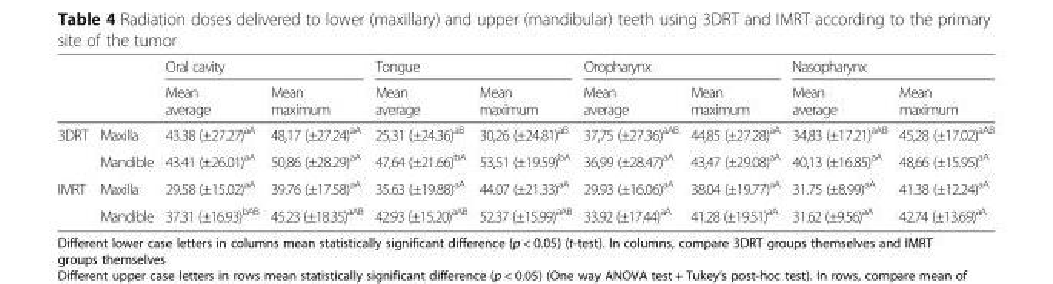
<table><thead><tr><td rowspan="2"></td><td rowspan="2"></td><td colspan="2">Oral cavity</td><td colspan="2">Tongue</td><td colspan="2">Oropharynx</td><td colspan="2">Nasopharynx</td></tr><tr><td>Mean average</td><td>Mean maximum</td><td>Mean average</td><td>Mean maximum</td><td>Mean average</td><td>Mean maximum</td><td>Mean average</td><td>Mean maximum</td></tr></thead><tbody><tr><td rowspan="2">3DRT</td><td>Maxilla</td><td>43.38 (±27.27)<sup>aA</sup></td><td>48,17 (±27.24)<sup>aA</sup></td><td>25,31 (±24.36)<sup>aB</sup></td><td>30,26 (±24.81)<sup>aB</sup></td><td>37,75 (±27.36)<sup>aAB</sup></td><td>44,85 (±27.28)<sup>aA</sup></td><td>34,83 (±17.21)<sup>aAB</sup></td><td>45,28 (±17.02)<sup>aAB</sup></td></tr><tr><td>Mandible</td><td>43.41 (±26.01)<sup>aA</sup></td><td>50,86 (±28.29)<sup>aA</sup></td><td>47,64 (±21.66)<sup>bA</sup></td><td>53,51 (±19.59)<sup>bA</sup></td><td>36,99 (±28.47)<sup>aA</sup></td><td>43,47 (±29.08)<sup>aA</sup></td><td>40,13 (±16.85)<sup>aA</sup></td><td>48,66 (±15.95)<sup>aA</sup></td></tr><tr><td rowspan="2">IMRT</td><td>Maxilla</td><td>29.58 (±15.02)<sup>aA</sup></td><td>39.76 (±17.58)<sup>aA</sup></td><td>35.63 (±19.88)<sup>aA</sup></td><td>44.07 (±21.33)<sup>aA</sup></td><td>29.93 (±16.06)<sup>aA</sup></td><td>38.04 (±19.77)<sup>aA</sup></td><td>31.75 (±8.99)<sup>aA</sup></td><td>41.38 (±12.24)<sup>aA</sup></td></tr><tr><td>Mandible</td><td>37.31 (±16.93)<sup>bAB</sup></td><td>45.23 (±18.35)<sup>aAB</sup></td><td>42.93 (±15.20)<sup>aAB</sup></td><td>52.37 (±15.99)<sup>aAB</sup></td><td>33.92 (±17.44)<sup>aA</sup></td><td>41.28 (±19.51)<sup>aA</sup></td><td>31.62 (±9.56)<sup>aA</sup></td><td>42.74 (±13.69)<sup>aA</sup></td></tr></tbody></table>